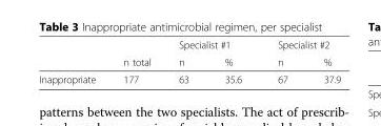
<table><thead><tr><td rowspan="2"></td><td rowspan="2">n total</td><td colspan="2">Specialist #1</td><td colspan="2">Specialist #2</td></tr><tr><td>n</td><td>%</td><td>n</td><td>%</td></tr></thead><tbody><tr><td>Inappropriate</td><td>177</td><td>63</td><td>35.6</td><td>67</td><td>37.9</td></tr></tbody></table>